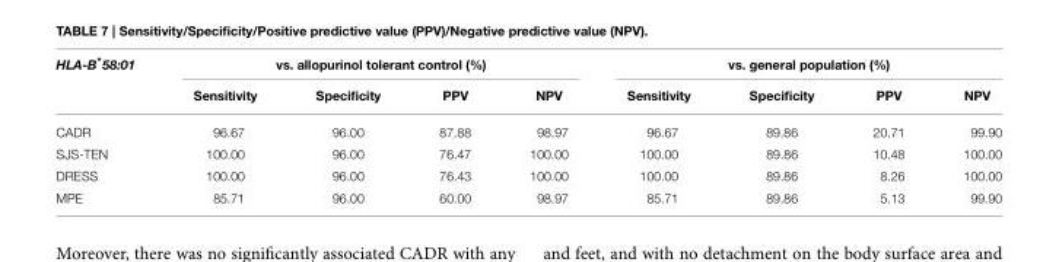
<table><thead><tr><td rowspan="2">HLA-B*58:01</td><td colspan="4">vs. allopurinol tolerant control (%)</td><td colspan="4">vs. general population (%)</td></tr><tr><td>Sensitivity</td><td>Specificity</td><td>PPV</td><td>NPV</td><td>Sensitivity</td><td>Specificity</td><td>PPV</td><td>NPV</td></tr></thead><tbody><tr><td>CADR</td><td>96.67</td><td>96.00</td><td>87.88</td><td>98.97</td><td>96.67</td><td>89.86</td><td>20.71</td><td>99.90</td></tr><tr><td>SJS-TEN</td><td>100.00</td><td>96.00</td><td>76.47</td><td>100.00</td><td>100.00</td><td>89.86</td><td>10.48</td><td>100.00</td></tr><tr><td>DRESS</td><td>100.00</td><td>96.00</td><td>76.43</td><td>100.00</td><td>100.00</td><td>89.86</td><td>8.26</td><td>100.00</td></tr><tr><td>MPE</td><td>85.71</td><td>96.00</td><td>60.00</td><td>98.97</td><td>85.71</td><td>89.86</td><td>5.13</td><td>99.90</td></tr></tbody></table>